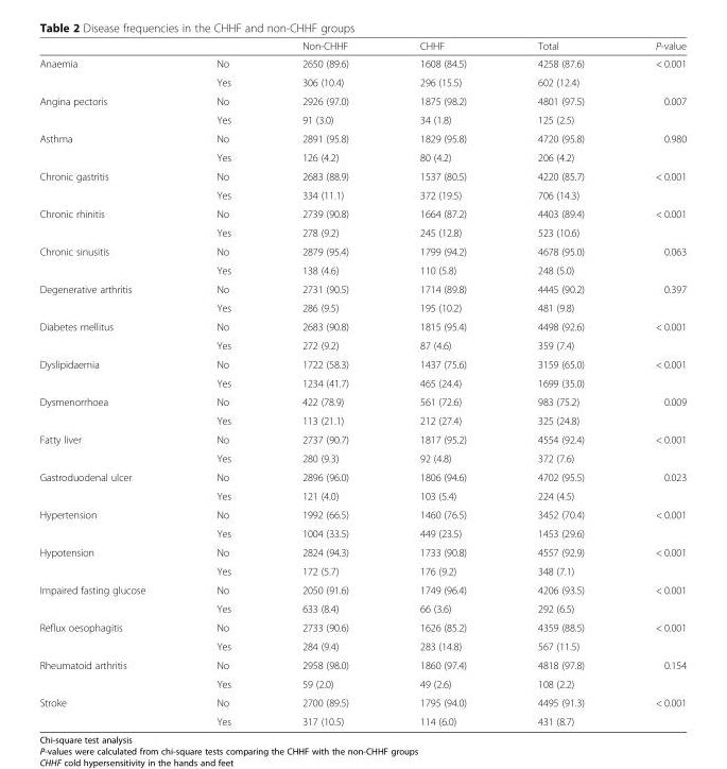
<table><thead><tr><td></td><td></td><td>Non-CHHF</td><td>CHHF</td><td>Total</td><td>P-value</td></tr></thead><tbody><tr><td rowspan="2">Anaemia</td><td>No</td><td>2650 (89.6)</td><td>1608 (84.5)</td><td>4258 (87.6)</td><td rowspan="2">&lt; 0.001</td></tr><tr><td>Yes</td><td>306 (10.4)</td><td>296 (15.5)</td><td>602 (12.4)</td></tr><tr><td rowspan="2">Angina pectoris</td><td>No</td><td>2926 (97.0)</td><td>1875 (98.2)</td><td>4801 (97.5)</td><td rowspan="2">0.007</td></tr><tr><td>Yes</td><td>91 (3.0)</td><td>34 (1.8)</td><td>125 (2.5)</td></tr><tr><td rowspan="2">Asthma</td><td>No</td><td>2891 (95.8)</td><td>1829 (95.8)</td><td>4720 (95.8)</td><td rowspan="2">0.980</td></tr><tr><td>Yes</td><td>126 (4.2)</td><td>80 (4.2)</td><td>206 (4.2)</td></tr><tr><td rowspan="2">Chronic gastritis</td><td>No</td><td>2683 (88.9)</td><td>1537 (80.5)</td><td>4220 (85.7)</td><td rowspan="2">&lt; 0.001</td></tr><tr><td>Yes</td><td>334 (11.1)</td><td>372 (19.5)</td><td>706 (14.3)</td></tr><tr><td rowspan="2">Chronic rhinitis</td><td>No</td><td>2739 (90.8)</td><td>1664 (87.2)</td><td>4403 (89.4)</td><td rowspan="2">&lt; 0.001</td></tr><tr><td>Yes</td><td>278 (9.2)</td><td>245 (12.8)</td><td>523 (10.6)</td></tr><tr><td rowspan="2">Chronic sinusitis</td><td>No</td><td>2879 (95.4)</td><td>1799 (94.2)</td><td>4678 (95.0)</td><td rowspan="2">0.063</td></tr><tr><td>Yes</td><td>138 (4.6)</td><td>110 (5.8)</td><td>248 (5.0)</td></tr><tr><td rowspan="2">Degenerative arthritis</td><td>No</td><td>2731 (90.5)</td><td>1714 (89.8)</td><td>4445 (90.2)</td><td rowspan="2">0.397</td></tr><tr><td>Yes</td><td>286 (9.5)</td><td>195 (10.2)</td><td>481 (9.8)</td></tr><tr><td rowspan="2">Diabetes mellitus</td><td>No</td><td>2683 (90.8)</td><td>1815 (95.4)</td><td>4498 (92.6)</td><td rowspan="2">&lt; 0.001</td></tr><tr><td>Yes</td><td>272 (9.2)</td><td>87 (4.6)</td><td>359 (7.4)</td></tr><tr><td rowspan="2">Dyslipidaemia</td><td>No</td><td>1722 (58.3)</td><td>1437 (75.6)</td><td>3159 (65.0)</td><td rowspan="2">&lt; 0.001</td></tr><tr><td>Yes</td><td>1234 (41.7)</td><td>465 (24.4)</td><td>1699 (35.0)</td></tr><tr><td rowspan="2">Dysmenorrhoea</td><td>No</td><td>422 (78.9)</td><td>561 (72.6)</td><td>983 (75.2)</td><td rowspan="2">0.009</td></tr><tr><td>Yes</td><td>113 (21.1)</td><td>212 (27.4)</td><td>325 (24.8)</td></tr><tr><td rowspan="2">Fatty liver</td><td>No</td><td>2737 (90.7)</td><td>1817 (95.2)</td><td>4554 (92.4)</td><td rowspan="2">&lt; 0.001</td></tr><tr><td>Yes</td><td>280 (9.3)</td><td>92 (4.8)</td><td>372 (7.6)</td></tr><tr><td rowspan="2">Gastroduodenal ulcer</td><td>No</td><td>2896 (96.0)</td><td>1806 (94.6)</td><td>4702 (95.5)</td><td rowspan="2">0.023</td></tr><tr><td>Yes</td><td>121 (4.0)</td><td>103 (5.4)</td><td>224 (4.5)</td></tr><tr><td rowspan="2">Hypertension</td><td>No</td><td>1992 (66.5)</td><td>1460 (76.5)</td><td>3452 (70.4)</td><td rowspan="2">&lt; 0.001</td></tr><tr><td>Yes</td><td>1004 (33.5)</td><td>449 (23.5)</td><td>1453 (29.6)</td></tr><tr><td rowspan="2">Hypotension</td><td>No</td><td>2824 (94.3)</td><td>1733 (90.8)</td><td>4557 (92.9)</td><td rowspan="2">&lt; 0.001</td></tr><tr><td>Yes</td><td>172 (5.7)</td><td>176 (9.2)</td><td>348 (7.1)</td></tr><tr><td rowspan="2">Impaired fasting glucose</td><td>No</td><td>2050 (91.6)</td><td>1749 (96.4)</td><td>4206 (93.5)</td><td rowspan="2">&lt; 0.001</td></tr><tr><td>Yes</td><td>633 (8.4)</td><td>66 (3.6)</td><td>292 (6.5)</td></tr><tr><td rowspan="2">Reflux oesophagitis</td><td>No</td><td>2733 (90.6)</td><td>1626 (85.2)</td><td>4359 (88.5)</td><td rowspan="2">&lt; 0.001</td></tr><tr><td>Yes</td><td>284 (9.4)</td><td>283 (14.8)</td><td>567 (11.5)</td></tr><tr><td rowspan="2">Rheumatoid arthritis</td><td>No</td><td>2958 (98.0)</td><td>1860 (97.4)</td><td>4818 (97.8)</td><td rowspan="2">0.154</td></tr><tr><td>Yes</td><td>59 (2.0)</td><td>49 (2.6)</td><td>108 (2.2)</td></tr><tr><td rowspan="2">Stroke</td><td>No</td><td>2700 (89.5)</td><td>1795 (94.0)</td><td>4495 (91.3)</td><td rowspan="2">&lt; 0.001</td></tr><tr><td>Yes</td><td>317 (10.5)</td><td>114 (6.0)</td><td>431 (8.7)</td></tr></tbody></table>